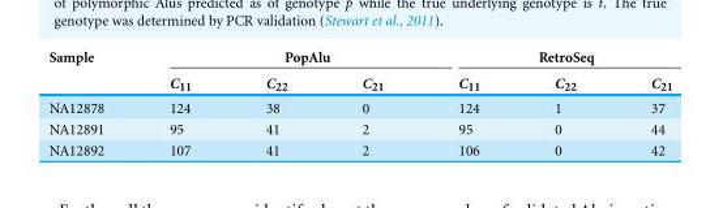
<table><thead><tr><td rowspan="2">Sample</td><td colspan="3">PopAlu</td><td colspan="3">RetroSeq</td></tr><tr><td>C<sub>11</sub></td><td>C<sub>22</sub></td><td>C<sub>21</sub></td><td>C<sub>11</sub></td><td>C<sub>22</sub></td><td>C<sub>21</sub></td></tr></thead><tbody><tr><td>NA12878</td><td>124</td><td>38</td><td>0</td><td>124</td><td>1</td><td>37</td></tr><tr><td>NA12891</td><td>95</td><td>41</td><td>2</td><td>95</td><td>0</td><td>44</td></tr><tr><td>NA12892</td><td>107</td><td>41</td><td>2</td><td>106</td><td>0</td><td>42</td></tr></tbody></table>